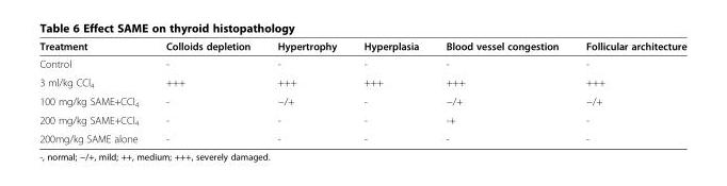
<table><thead><tr><td>Treatment</td><td>Colloids depletion</td><td>Hypertrophy</td><td>Hyperplasia</td><td>Blood vessel congestion</td><td>Follicular architecture</td></tr></thead><tbody><tr><td>Control</td><td>-</td><td>-</td><td>-</td><td>-</td><td>-</td></tr><tr><td>3 ml/kg CCl<sub>4</sub></td><td>+++</td><td>+++</td><td>+++</td><td>+++</td><td>+++</td></tr><tr><td>100 mg/kg SAME+CCl<sub>4</sub></td><td>-</td><td>−/+</td><td>-</td><td>−/+</td><td>−/+</td></tr><tr><td>200 mg/kg SAME+CCl<sub>4</sub></td><td>-</td><td>-</td><td>-</td><td>-+</td><td>-</td></tr><tr><td>200mg/kg SAME alone</td><td>-</td><td>-</td><td>-</td><td>-</td><td>-</td></tr></tbody></table>